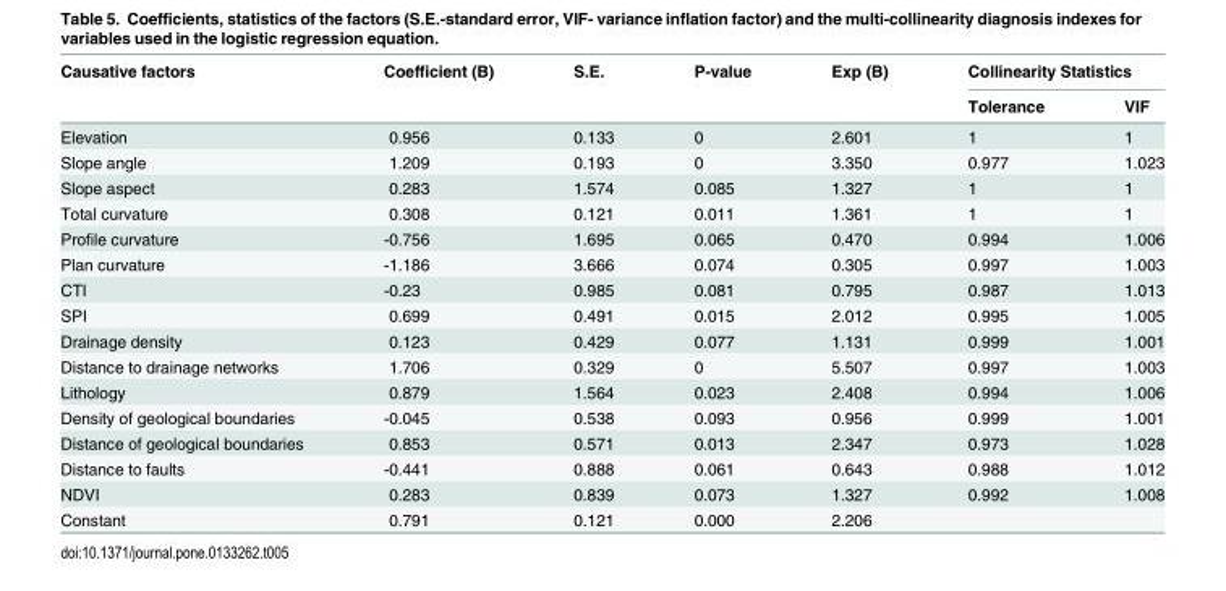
<table><thead><tr><td rowspan="2">Causative factors</td><td rowspan="2">Coefficient (B)</td><td rowspan="2">S.E.</td><td rowspan="2">P-value</td><td rowspan="2">Exp (B)</td><td colspan="2">Collinearity Statistics</td></tr><tr><td>Tolerance</td><td>VIF</td></tr></thead><tbody><tr><td>Elevation</td><td>0.956</td><td>0.133</td><td>0</td><td>2.601</td><td>1</td><td>1</td></tr><tr><td>Slope angle</td><td>1.209</td><td>0.193</td><td>0</td><td>3.350</td><td>0.977</td><td>1.023</td></tr><tr><td>Slope aspect</td><td>0.283</td><td>1.574</td><td>0.085</td><td>1.327</td><td>1</td><td>1</td></tr><tr><td>Total curvature</td><td>0.308</td><td>0.121</td><td>0.011</td><td>1.361</td><td>1</td><td>1</td></tr><tr><td>Profile curvature</td><td>-0.756</td><td>1.695</td><td>0.065</td><td>0.470</td><td>0.994</td><td>1.006</td></tr><tr><td>Plan curvature</td><td>-1.186</td><td>3.666</td><td>0.074</td><td>0.305</td><td>0.997</td><td>1.003</td></tr><tr><td>CTI</td><td>-0.23</td><td>0.985</td><td>0.081</td><td>0.795</td><td>0.987</td><td>1.013</td></tr><tr><td>SPI</td><td>0.699</td><td>0.491</td><td>0.015</td><td>2.012</td><td>0.995</td><td>1.005</td></tr><tr><td>Drainage density</td><td>0.123</td><td>0.429</td><td>0.077</td><td>1.131</td><td>0.999</td><td>1.001</td></tr><tr><td>Distance to drainage networks</td><td>1.706</td><td>0.329</td><td>0</td><td>5.507</td><td>0.997</td><td>1.003</td></tr><tr><td>Lithology</td><td>0.879</td><td>1.564</td><td>0.023</td><td>2.408</td><td>0.994</td><td>1.006</td></tr><tr><td>Density of geological boundaries</td><td>-0.045</td><td>0.538</td><td>0.093</td><td>0.956</td><td>0.999</td><td>1.001</td></tr><tr><td>Distance of geological boundaries</td><td>0.853</td><td>0.571</td><td>0.013</td><td>2.347</td><td>0.973</td><td>1.028</td></tr><tr><td>Distance to faults</td><td>-0.441</td><td>0.888</td><td>0.061</td><td>0.643</td><td>0.988</td><td>1.012</td></tr><tr><td>NDVI</td><td>0.283</td><td>0.839</td><td>0.073</td><td>1.327</td><td>0.992</td><td>1.008</td></tr><tr><td>Constant</td><td>0.791</td><td>0.121</td><td>0.000</td><td>2.206</td><td></td><td></td></tr></tbody></table>